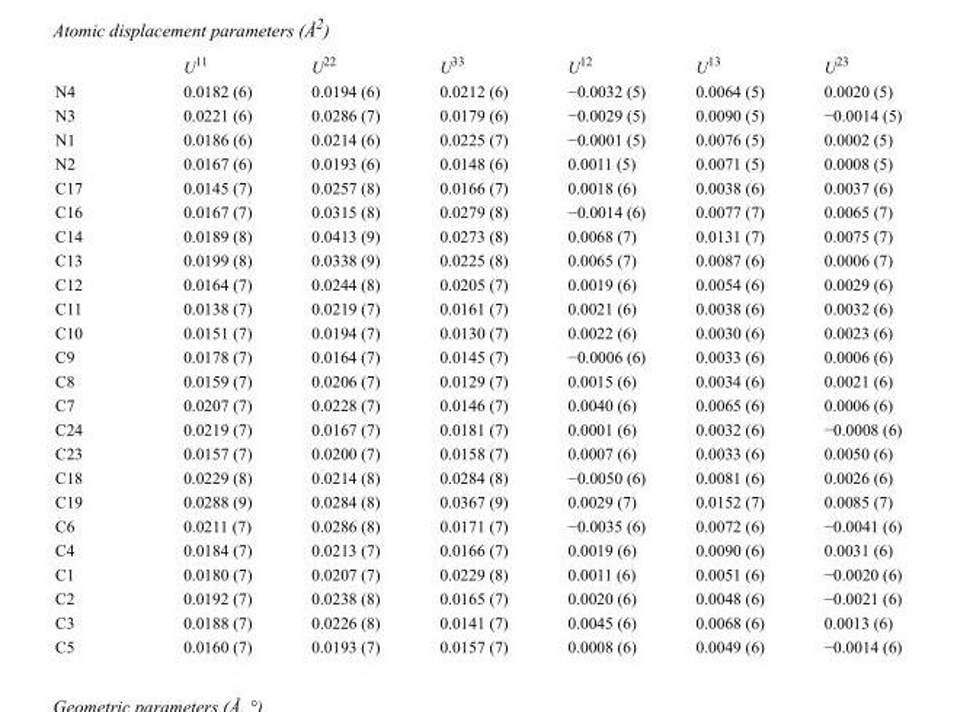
<table><thead><tr><td></td><td>U<sup>11</sup></td><td>U<sup>22</sup></td><td>U<sup>33</sup></td><td>U<sup>12</sup></td><td>U<sup>13</sup></td><td>U<sup>23</sup></td></tr></thead><tbody><tr><td>N4</td><td>0.0182 (6)</td><td>0.0194 (6)</td><td>0.0212 (6)</td><td>−0.0032 (5)</td><td>0.0064 (5)</td><td>0.0020 (5)</td></tr><tr><td>N3</td><td>0.0221 (6)</td><td>0.0286 (7)</td><td>0.0179 (6)</td><td>−0.0029 (5)</td><td>0.0090 (5)</td><td>−0.0014 (5)</td></tr><tr><td>N1</td><td>0.0186 (6)</td><td>0.0214 (6)</td><td>0.0225 (7)</td><td>−0.0001 (5)</td><td>0.0076 (5)</td><td>0.0002 (5)</td></tr><tr><td>N2</td><td>0.0167 (6)</td><td>0.0193 (6)</td><td>0.0148 (6)</td><td>0.0011 (5)</td><td>0.0071 (5)</td><td>0.0008 (5)</td></tr><tr><td>C17</td><td>0.0145 (7)</td><td>0.0257 (8)</td><td>0.0166 (7)</td><td>0.0018 (6)</td><td>0.0038 (6)</td><td>0.0037 (6)</td></tr><tr><td>C16</td><td>0.0167 (7)</td><td>0.0315 (8)</td><td>0.0279 (8)</td><td>−0.0014 (6)</td><td>0.0077 (7)</td><td>0.0065 (7)</td></tr><tr><td>C14</td><td>0.0189 (8)</td><td>0.0413 (9)</td><td>0.0273 (8)</td><td>0.0068 (7)</td><td>0.0131 (7)</td><td>0.0075 (7)</td></tr><tr><td>C13</td><td>0.0199 (8)</td><td>0.0338 (9)</td><td>0.0225 (8)</td><td>0.0065 (7)</td><td>0.0087 (6)</td><td>0.0006 (7)</td></tr><tr><td>C12</td><td>0.0164 (7)</td><td>0.0244 (8)</td><td>0.0205 (7)</td><td>0.0019 (6)</td><td>0.0054 (6)</td><td>0.0029 (6)</td></tr><tr><td>C11</td><td>0.0138 (7)</td><td>0.0219 (7)</td><td>0.0161 (7)</td><td>0.0021 (6)</td><td>0.0038 (6)</td><td>0.0032 (6)</td></tr><tr><td>C10</td><td>0.0151 (7)</td><td>0.0194 (7)</td><td>0.0130 (7)</td><td>0.0022 (6)</td><td>0.0030 (6)</td><td>0.0023 (6)</td></tr><tr><td>C9</td><td>0.0178 (7)</td><td>0.0164 (7)</td><td>0.0145 (7)</td><td>−0.0006 (6)</td><td>0.0033 (6)</td><td>0.0006 (6)</td></tr><tr><td>C8</td><td>0.0159 (7)</td><td>0.0206 (7)</td><td>0.0129 (7)</td><td>0.0015 (6)</td><td>0.0034 (6)</td><td>0.0021 (6)</td></tr><tr><td>C7</td><td>0.0207 (7)</td><td>0.0228 (7)</td><td>0.0146 (7)</td><td>0.0040 (6)</td><td>0.0065 (6)</td><td>0.0006 (6)</td></tr><tr><td>C24</td><td>0.0219 (7)</td><td>0.0167 (7)</td><td>0.0181 (7)</td><td>0.0001 (6)</td><td>0.0032 (6)</td><td>−0.0008 (6)</td></tr><tr><td>C23</td><td>0.0157 (7)</td><td>0.0200 (7)</td><td>0.0158 (7)</td><td>0.0007 (6)</td><td>0.0033 (6)</td><td>0.0050 (6)</td></tr><tr><td>C18</td><td>0.0229 (8)</td><td>0.0214 (8)</td><td>0.0284 (8)</td><td>−0.0050 (6)</td><td>0.0081 (6)</td><td>0.0026 (6)</td></tr><tr><td>C19</td><td>0.0288 (9)</td><td>0.0284 (8)</td><td>0.0367 (9)</td><td>0.0029 (7)</td><td>0.0152 (7)</td><td>0.0085 (7)</td></tr><tr><td>C6</td><td>0.0211 (7)</td><td>0.0286 (8)</td><td>0.0171 (7)</td><td>−0.0035 (6)</td><td>0.0072 (6)</td><td>−0.0041 (6)</td></tr><tr><td>C4</td><td>0.0184 (7)</td><td>0.0213 (7)</td><td>0.0166 (7)</td><td>0.0019 (6)</td><td>0.0090 (6)</td><td>0.0031 (6)</td></tr><tr><td>C1</td><td>0.0180 (7)</td><td>0.0207 (7)</td><td>0.0229 (8)</td><td>0.0011 (6)</td><td>0.0051 (6)</td><td>−0.0020 (6)</td></tr><tr><td>C2</td><td>0.0192 (7)</td><td>0.0238 (8)</td><td>0.0165 (7)</td><td>0.0020 (6)</td><td>0.0048 (6)</td><td>−0.0021 (6)</td></tr><tr><td>C3</td><td>0.0188 (7)</td><td>0.0226 (8)</td><td>0.0141 (7)</td><td>0.0045 (6)</td><td>0.0068 (6)</td><td>0.0013 (6)</td></tr><tr><td>C5</td><td>0.0160 (7)</td><td>0.0193 (7)</td><td>0.0157 (7)</td><td>0.0008 (6)</td><td>0.0049 (6)</td><td>−0.0014 (6)</td></tr></tbody></table>